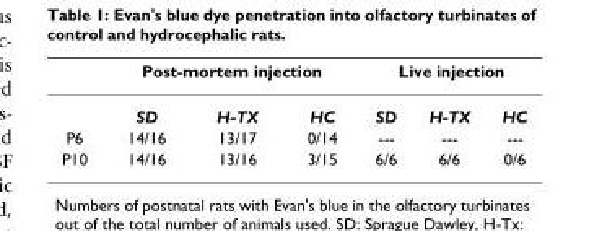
<table><thead><tr><td rowspan="2"></td><td colspan="3">Post-mortem injection</td><td colspan="3">Live injection</td></tr><tr><td>SD</td><td>H-TX</td><td>HC</td><td>SD</td><td>H-TX</td><td>HC</td></tr></thead><tbody><tr><td>P6</td><td>14/16</td><td>13/17</td><td>0/14</td><td>---</td><td>---</td><td>---</td></tr><tr><td>P10</td><td>14/16</td><td>13/16</td><td>3/15</td><td>6/6</td><td>6/6</td><td>0/6</td></tr></tbody></table>